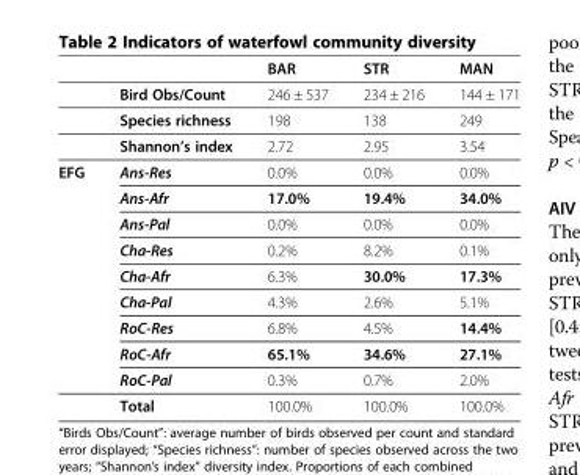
<table><thead><tr><td></td><td></td><td>BAR</td><td>STR</td><td>MAN</td></tr></thead><tbody><tr><td></td><td>Bird Obs/Count</td><td>246 ± 537</td><td>234 ± 216</td><td>144 ± 171</td></tr><tr><td></td><td>Species richness</td><td>198</td><td>138</td><td>249</td></tr><tr><td></td><td>Shannon’s index</td><td>2.72</td><td>2.95</td><td>3.54</td></tr><tr><td rowspan="10">EFG</td><td>Ans-Res</td><td>0.0%</td><td>0.0%</td><td>0.0%</td></tr><tr><td>Ans-Afr</td><td>17.0%</td><td>19.4%</td><td>34.0%</td></tr><tr><td>Ans-Pal</td><td>0.0%</td><td>0.0%</td><td>0.0%</td></tr><tr><td>Cha-Res</td><td>0.2%</td><td>8.2%</td><td>0.1%</td></tr><tr><td>Cha-Afr</td><td>6.3%</td><td>30.0%</td><td>17.3%</td></tr><tr><td>Cha-Pal</td><td>4.3%</td><td>2.6%</td><td>5.1%</td></tr><tr><td>RoC-Res</td><td>6.8%</td><td>4.5%</td><td>14.4%</td></tr><tr><td>RoC-Afr</td><td>65.1%</td><td>34.6%</td><td>27.1%</td></tr><tr><td>RoC-Pal</td><td>0.3%</td><td>0.7%</td><td>2.0%</td></tr><tr><td>Total</td><td>100.0%</td><td>100.0%</td><td>100.0%</td></tr></tbody></table>